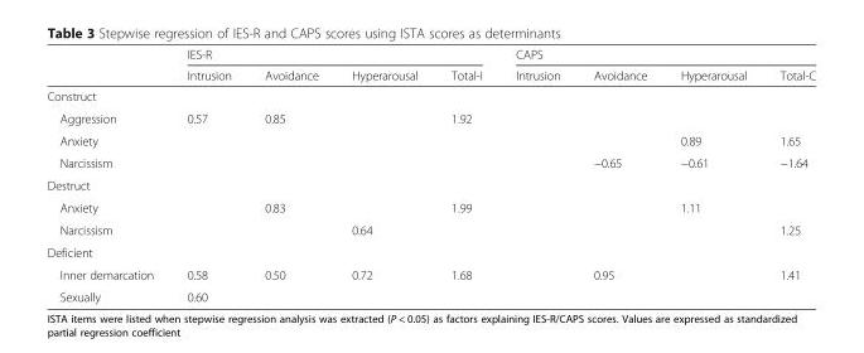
<table><thead><tr><td rowspan="2"></td><td colspan="4">IES-R</td><td colspan="4">CAPS</td></tr><tr><td>Intrusion</td><td>Avoidance</td><td>Hyperarousal</td><td>Total-I</td><td>Intrusion</td><td>Avoidance</td><td>Hyperarousal</td><td>Total-C</td></tr></thead><tbody><tr><td colspan="9">Construct</td></tr><tr><td>Aggression</td><td>0.57</td><td>0.85</td><td></td><td>1.92</td><td></td><td></td><td></td><td></td></tr><tr><td>Anxiety</td><td></td><td></td><td></td><td></td><td></td><td></td><td>0.89</td><td>1.65</td></tr><tr><td>Narcissism</td><td></td><td></td><td></td><td></td><td></td><td>−0.65</td><td>−0.61</td><td>−1.64</td></tr><tr><td colspan="9">Destruct</td></tr><tr><td>Anxiety</td><td></td><td>0.83</td><td></td><td>1.99</td><td></td><td></td><td>1.11</td><td></td></tr><tr><td>Narcissism</td><td></td><td></td><td>0.64</td><td></td><td></td><td></td><td></td><td>1.25</td></tr><tr><td colspan="9">Deficient</td></tr><tr><td>Inner demarcation</td><td>0.58</td><td>0.50</td><td>0.72</td><td>1.68</td><td></td><td>0.95</td><td></td><td>1.41</td></tr><tr><td>Sexually</td><td>0.60</td><td></td><td></td><td></td><td></td><td></td><td></td><td></td></tr></tbody></table>